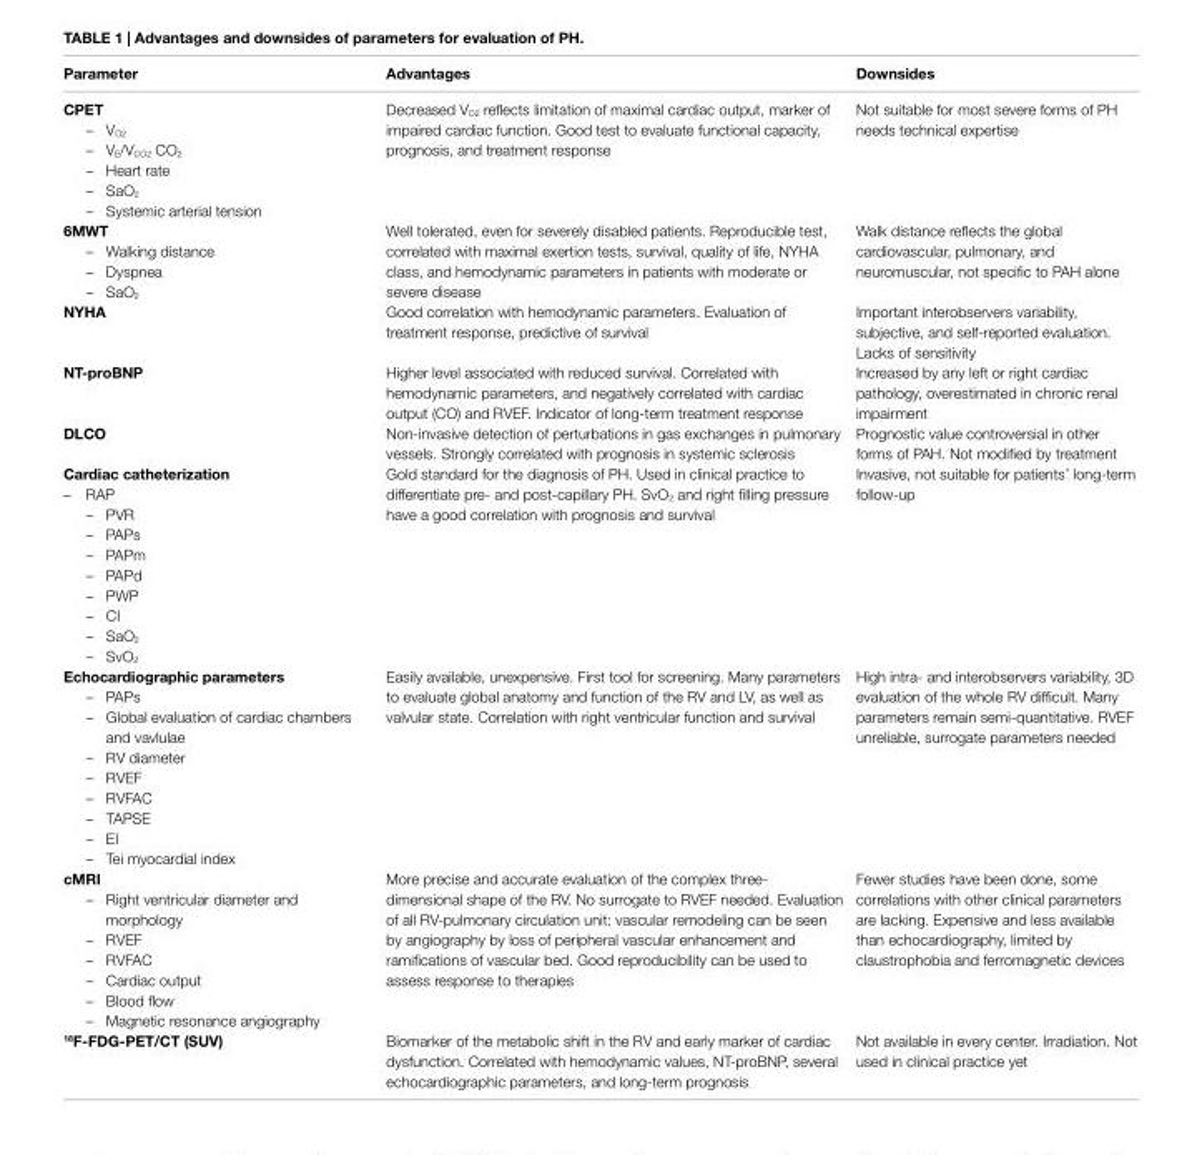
<table><thead><tr><td>Parameter</td><td>Advantages</td><td>Downsides</td></tr></thead><tbody><tr><td>CPeT – V<sub>O2</sub> – V<sub>E</sub>/V<sub>CO2</sub> CO<sub>2</sub> – Heart rate – SaO<sub>2</sub> – Systemic arterial tension</td><td>Decreased V<sub>O2</sub> reflects limitation of maximal cardiac output, marker of impaired cardiac function. Good test to evaluate functional capacity, prognosis, and treatment response</td><td>Not suitable for most severe forms of PH needs technical expertise</td></tr><tr><td>6MwT – Walking distance – Dyspnea – SaO<sub>2</sub></td><td>Well tolerated, even for severely disabled patients. Reproducible test, correlated with maximal exertion tests, survival, quality of life, NYHA class, and hemodynamic parameters in patients with moderate or severe disease</td><td>Walk distance reflects the global cardiovascular, pulmonary, and neuromuscular, not specific to PAH alone</td></tr><tr><td>NYHA</td><td>Good correlation with hemodynamic parameters. Evaluation of treatment response, predictive of survival</td><td>Important interobservers variability, subjective, and self-reported evaluation. Lacks of sensitivity</td></tr><tr><td>NT-proBNP</td><td>Higher level associated with reduced survival. Correlated with hemodynamic parameters, and negatively correlated with cardiac output (CO) and RVEF. Indicator of long-term treatment response</td><td>Increased by any left or right cardiac pathology, overestimated in chronic renal impairment</td></tr><tr><td>DLCO</td><td>Non-invasive detection of perturbations in gas exchanges in pulmonary vessels. Strongly correlated with prognosis in systemic sclerosis</td><td>Prognostic value controversial in other forms of PAH. Not modified by treatment</td></tr><tr><td>Cardiac catheterization – RAP – PVR – PAPs – PAPm – PAPd – PWP – CI – SaO<sub>2</sub> – SvO<sub>2</sub></td><td>Gold standard for the diagnosis of PH. Used in clinical practice to differentiate pre- and post-capillary PH. SvO<sub>2</sub> and right filling pressure have a good correlation with prognosis and survival</td><td>Invasive, not suitable for patients’ long-term follow-up</td></tr><tr><td>echocardiographic parameters – PAPs – Global evaluation of cardiac chambers and vavlulae – RV diameter – RVEF – RVFAC – TAPSE – EI – Tei myocardial index</td><td>Easily available, unexpensive. First tool for screening. Many parameters to evaluate global anatomy and function of the RV and LV, as well as valvular state. Correlation with right ventricular function and survival</td><td>High intra- and interobservers variability, 3D evaluation of the whole RV difficult. Many parameters remain semi-quantitative. RVEF unreliable, surrogate parameters needed</td></tr><tr><td>cMRi – Right ventricular diameter and morphology – RVEF – RVFAC – Cardiac output – Blood flow – Magnetic resonance angiography</td><td>More precise and accurate evaluation of the complex three- dimensional shape of the RV. No surrogate to RVEF needed. Evaluation of all RV-pulmonary circulation unit: vascular remodeling can be seen by angiography by loss of peripheral vascular enhancement and ramifications of vascular bed. Good reproducibility can be used to assess response to therapies</td><td>Fewer studies have been done, some correlations with other clinical parameters are lacking. Expensive and less available than echocardiography, limited by claustrophobia and ferromagnetic devices</td></tr><tr><td><sup>18</sup>F-FDG-PeT/CT (SUv)</td><td>Biomarker of the metabolic shift in the RV and early marker of cardiac dysfunction. Correlated with hemodynamic values, NT-proBNP, several echocardiographic parameters, and long-term prognosis</td><td>Not available in every center. Irradiation. Not used in clinical practice yet</td></tr></tbody></table>